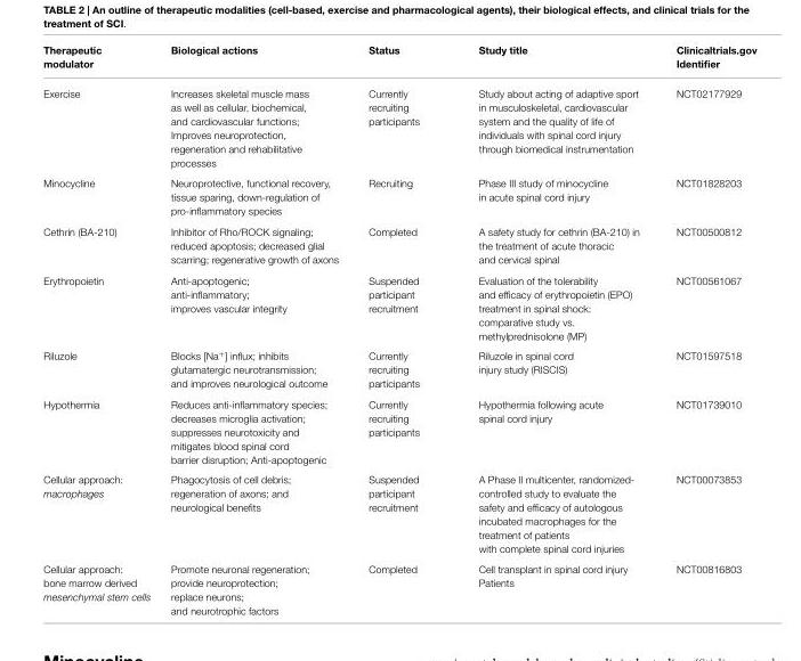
<table><thead><tr><td>Therapeutic modulator</td><td>Biological actions</td><td>Status</td><td>Study title</td><td>Clinicaltrials.gov Identifier</td></tr></thead><tbody><tr><td>Exercise</td><td>Increases skeletal muscle mass as well as cellular, biochemical, and cardiovascular functions; Improves neuroprotection, regeneration and rehabilitative processes</td><td>Currently recruiting participants</td><td>Study about acting of adaptive sport in musculoskeletal, cardiovascular system and the quality of life of individuals with spinal cord injury through biomedical instrumentation</td><td>NCT02177929</td></tr><tr><td>Minocycline</td><td>Neuroprotective, functional recovery, tissue sparing, down-regulation of pro-inflammatory species</td><td>Recruiting</td><td>Phase III study of minocycline in acute spinal cord injury</td><td>NCT01828203</td></tr><tr><td>Cethrin (BA-210)</td><td>Inhibitor of Rho/ROCK signaling; reduced apoptosis; decreased glial scarring; regenerative growth of axons</td><td>Completed</td><td>A safety study for cethrin (BA-210) in the treatment of acute thoracic and cervical spinal</td><td>NCT00500812</td></tr><tr><td>Erythropoietin</td><td>Anti-apoptogenic; anti-inflammatory; improves vascular integrity</td><td>Suspended participant recruitment</td><td>Evaluation of the tolerability and efficacy of erythropoietin (EPO) treatment in spinal shock: comparative study vs. methylprednisolone (MP)</td><td>NCT00561067</td></tr><tr><td>Riluzole</td><td>Blocks [Na<sup>+</sup>] influx; inhibits glutamatergic neurotransmission; and improves neurological outcome</td><td>Currently recruiting participants</td><td>Riluzole in spinal cord injury study (RISCIS)</td><td>NCT01597518</td></tr><tr><td>Hypothermia</td><td>Reduces anti-inflammatory species; decreases microglia activation; suppresses neurotoxicity and mitigates blood spinal cord barrier disruption; Anti-apoptogenic</td><td>Currently recruiting participants</td><td>Hypothermia following acute spinal cord injury</td><td>NCT01739010</td></tr><tr><td>Cellular approach: macrophages</td><td>Phagocytosis of cell debris; regeneration of axons; and neurological benefits</td><td>Suspended participant recruitment</td><td>A Phase II multicenter, randomized- controlled study to evaluate the safety and efficacy of autologous incubated macrophages for the treatment of patients with complete spinal cord injuries</td><td>NCT00073853</td></tr><tr><td>Cellular approach: bone marrow derived mesenchymal stem cells</td><td>Promote neuronal regeneration; provide neuroprotection; replace neurons; and neurotrophic factors</td><td>Completed</td><td>Cell transplant in spinal cord injury Patients</td><td>NCT00816803</td></tr></tbody></table>